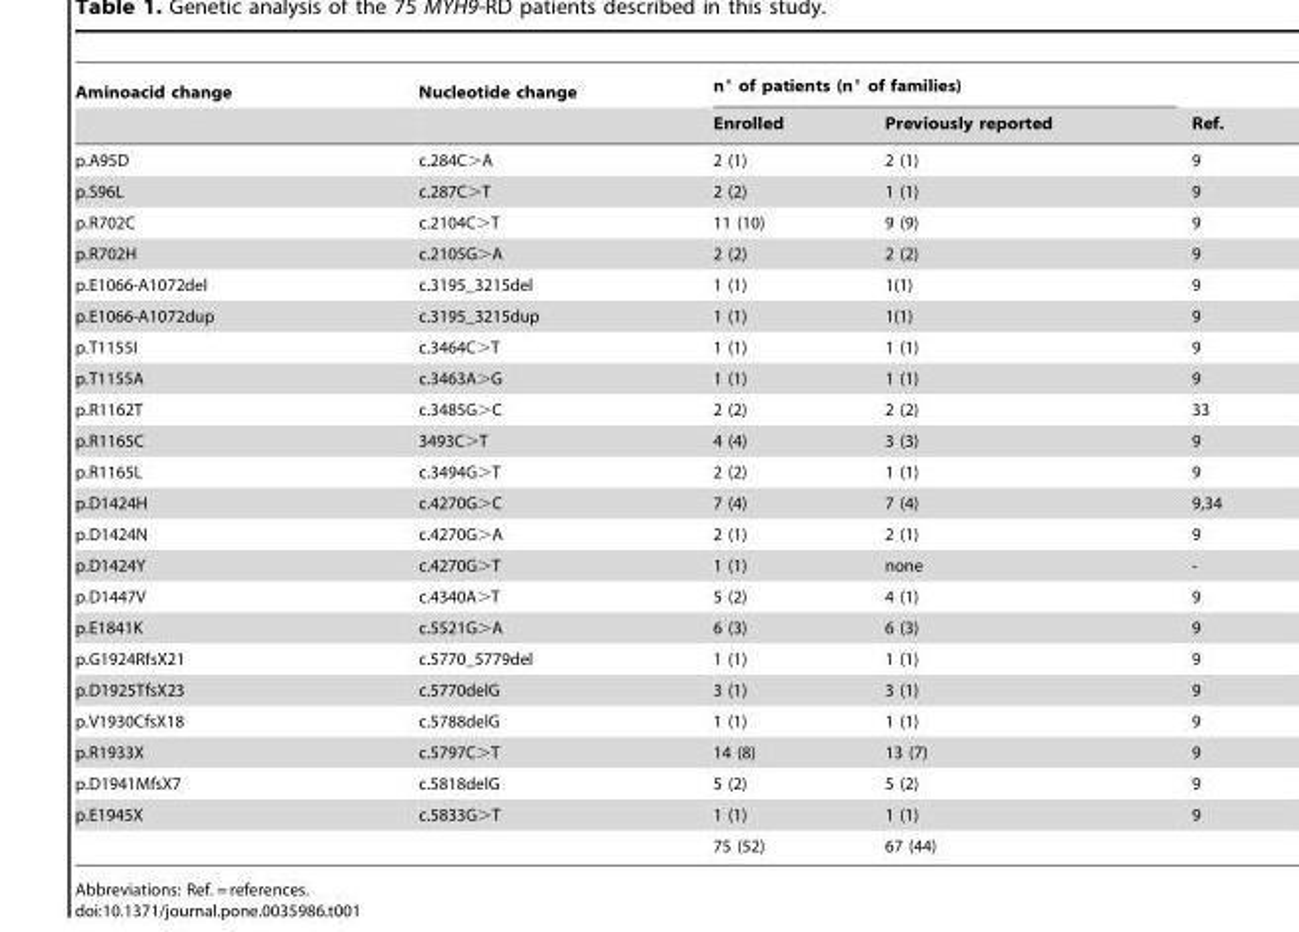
<table><thead><tr><td rowspan="2">Aminoacid change</td><td rowspan="2">Nucleotide change</td><td colspan="2">n° of patients (n° of families)</td><td rowspan="2">Ref.</td></tr><tr><td>Enrolled</td><td>Previously reported</td></tr></thead><tbody><tr><td>p.A95D</td><td>c.284C&gt;A</td><td>2 (1)</td><td>2 (1)</td><td>9</td></tr><tr><td>p.S96L</td><td>c.287C&gt;T</td><td>2 (2)</td><td>1 (1)</td><td>9</td></tr><tr><td>p.R702C</td><td>c.2104C&gt;T</td><td>11 (10)</td><td>9 (9)</td><td>9</td></tr><tr><td>p.R702H</td><td>c.2105G&gt;A</td><td>2 (2)</td><td>2 (2)</td><td>9</td></tr><tr><td>p.E1066-A1072del</td><td>c.3195_3215del</td><td>1 (1)</td><td>1(1)</td><td>9</td></tr><tr><td>p.E1066-A1072dup</td><td>c.3195_3215dup</td><td>1 (1)</td><td>1(1)</td><td>9</td></tr><tr><td>p.T1155I</td><td>c.3464C&gt;T</td><td>1 (1)</td><td>1 (1)</td><td>9</td></tr><tr><td>p.T1155A</td><td>c.3463A&gt;G</td><td>1 (1)</td><td>1 (1)</td><td>9</td></tr><tr><td>p.R1162T</td><td>c.3485G&gt;C</td><td>2 (2)</td><td>2 (2)</td><td>33</td></tr><tr><td>p.R1165C</td><td>3493C&gt;T</td><td>4 (4)</td><td>3 (3)</td><td>9</td></tr><tr><td>p.R1165L</td><td>c.3494G&gt;T</td><td>2 (2)</td><td>1 (1)</td><td>9</td></tr><tr><td>p.D1424H</td><td>c.4270G&gt;C</td><td>7 (4)</td><td>7 (4)</td><td>9,34</td></tr><tr><td>p.D1424N</td><td>c.4270G&gt;A</td><td>2 (1)</td><td>2 (1)</td><td>9</td></tr><tr><td>p.D1424Y</td><td>c.4270G&gt;T</td><td>1 (1)</td><td>none</td><td>-</td></tr><tr><td>p.D1447V</td><td>c.4340A&gt;T</td><td>5 (2)</td><td>4 (1)</td><td>9</td></tr><tr><td>p.E1841K</td><td>c.5521G&gt;A</td><td>6 (3)</td><td>6 (3)</td><td>9</td></tr><tr><td>p.G1924RfsX21</td><td>c.5770_5779del</td><td>1 (1)</td><td>1 (1)</td><td>9</td></tr><tr><td>p.D1925TfsX23</td><td>c.5770delG</td><td>3 (1)</td><td>3 (1)</td><td>9</td></tr><tr><td>p.V1930CfsX18</td><td>c.5788delG</td><td>1 (1)</td><td>1 (1)</td><td>9</td></tr><tr><td>p.R1933X</td><td>c.5797C&gt;T</td><td>14 (8)</td><td>13 (7)</td><td>9</td></tr><tr><td>p.D1941MfsX7</td><td>c.5818delG</td><td>5 (2)</td><td>5 (2)</td><td>9</td></tr><tr><td rowspan="2">p.E1945X</td><td>c.5833G&gt;T</td><td>1 (1)</td><td>1 (1)</td><td>9</td></tr><tr><td></td><td>75 (52)</td><td>67 (44)</td><td></td></tr></tbody></table>